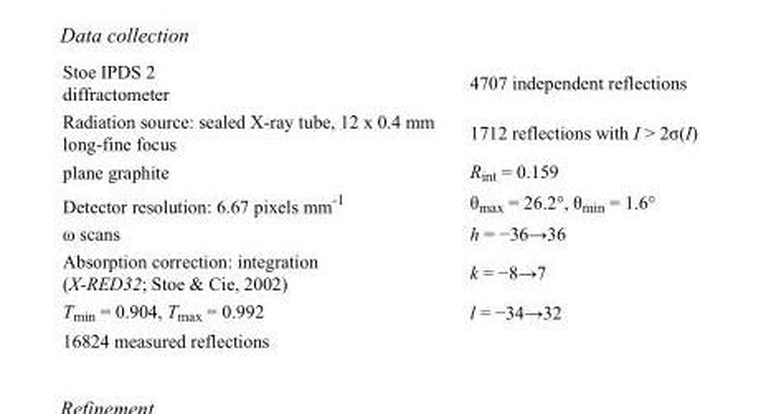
<table><tbody><tr><td>Stoe IPDS 2 diffractometer</td><td>4707 independent reflections</td></tr><tr><td>Radiation source: sealed X-ray tube, 12 x 0.4 mm long-fine focus</td><td>1712 reflections with I &gt; 2σ(I)</td></tr><tr><td>plane graphite</td><td>R<sub>int</sub> = 0.159</td></tr><tr><td>Detector resolution: 6.67 pixels mm<sup>-1</sup></td><td>θ<sub>max</sub> = 26.2°, θ<sub>min</sub> = 1.6°</td></tr><tr><td>ω scans</td><td>h = −36→36</td></tr><tr><td>Absorption correction: integration (X-RED32; Stoe &amp; Cie, 2002)</td><td>k = −8→7</td></tr><tr><td>T<sub>min</sub> = 0.904, T<sub>max</sub> = 0.992</td><td>l = −34→32</td></tr><tr><td>16824 measured reflections</td><td></td></tr></tbody></table>